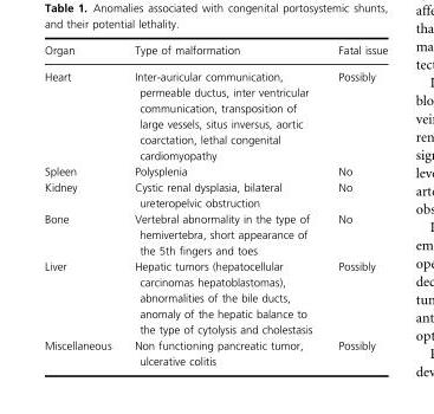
<table><thead><tr><td>Organ</td><td>Type of malformation</td><td>Fatal issue</td></tr></thead><tbody><tr><td>Heart</td><td>Inter-auricular communication, permeable ductus, inter ventricular communication, transposition of large vessels, situs inversus, aortic coarctation, lethal congenital cardiomyopathy</td><td>Possibly</td></tr><tr><td>Spleen</td><td>Polysplenia</td><td>No</td></tr><tr><td>Kidney</td><td>Cystic renal dysplasia, bilateral ureteropelvic obstruction</td><td>No</td></tr><tr><td>Bone</td><td>Vertebral abnormality in the type of hemivertebra, short appearance of the 5th fingers and toes</td><td>No</td></tr><tr><td>Liver</td><td>Hepatic tumors (hepatocellular carcinomas hepatoblastomas), abnormalities of the bile ducts, anomaly of the hepatic balance to the type of cytolysis and cholestasis</td><td>Possibly</td></tr><tr><td>Miscellaneous</td><td>Non functioning pancreatic tumor, ulcerative colitis</td><td>Possibly</td></tr></tbody></table>